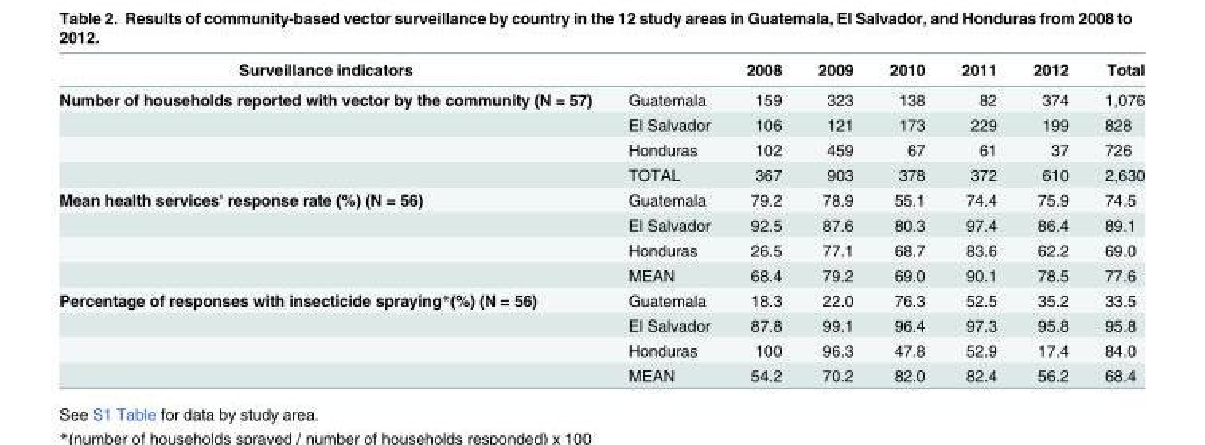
<table><thead><tr><td>Surveillance indicators</td><td></td><td>2008</td><td>2009</td><td>2010</td><td>2011</td><td>2012</td><td>Total</td></tr></thead><tbody><tr><td rowspan="4">Number of households reported with vector by the community (N = 57)</td><td>Guatemala</td><td>159</td><td>323</td><td>138</td><td>82</td><td>374</td><td>1,076</td></tr><tr><td>El Salvador</td><td>106</td><td>121</td><td>173</td><td>229</td><td>199</td><td>828</td></tr><tr><td>Honduras</td><td>102</td><td>459</td><td>67</td><td>61</td><td>37</td><td>726</td></tr><tr><td>TOTAL</td><td>367</td><td>903</td><td>378</td><td>372</td><td>610</td><td>2,630</td></tr><tr><td rowspan="4">Mean health services&#x27; response rate (%) (N = 56)</td><td>Guatemala</td><td>79.2</td><td>78.9</td><td>55.1</td><td>74.4</td><td>75.9</td><td>74.5</td></tr><tr><td>El Salvador</td><td>92.5</td><td>87.6</td><td>80.3</td><td>97.4</td><td>86.4</td><td>89.1</td></tr><tr><td>Honduras</td><td>26.5</td><td>77.1</td><td>68.7</td><td>83.6</td><td>62.2</td><td>69.0</td></tr><tr><td>MEAN</td><td>68.4</td><td>79.2</td><td>69.0</td><td>90.1</td><td>78.5</td><td>77.6</td></tr><tr><td rowspan="4">Percentage of responses with insecticide spraying*(%) (N = 56)</td><td>Guatemala</td><td>18.3</td><td>22.0</td><td>76.3</td><td>52.5</td><td>35.2</td><td>33.5</td></tr><tr><td>El Salvador</td><td>87.8</td><td>99.1</td><td>96.4</td><td>97.3</td><td>95.8</td><td>95.8</td></tr><tr><td>Honduras</td><td>100</td><td>96.3</td><td>47.8</td><td>52.9</td><td>17.4</td><td>84.0</td></tr><tr><td>MEAN</td><td>54.2</td><td>70.2</td><td>82.0</td><td>82.4</td><td>56.2</td><td>68.4</td></tr></tbody></table>